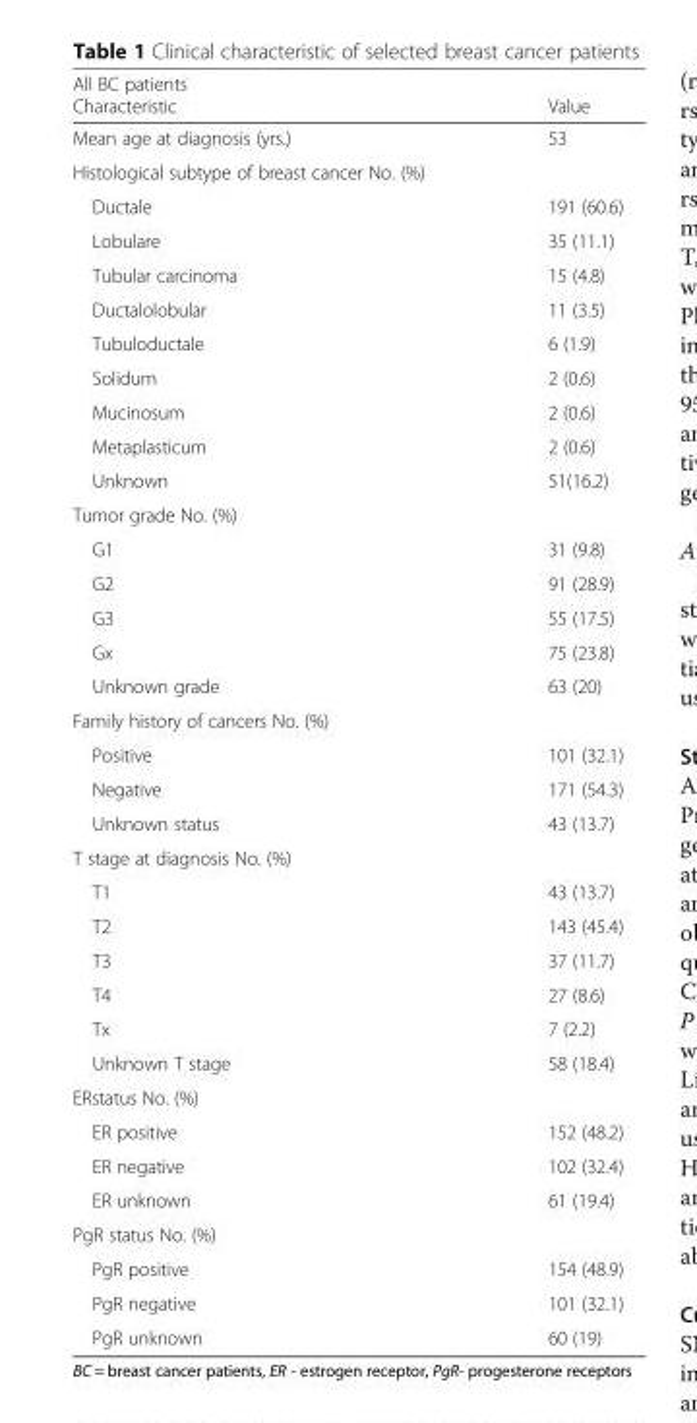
<table><thead><tr><td colspan="2">All BC patients</td></tr><tr><td>Characteristic</td><td>Value</td></tr></thead><tbody><tr><td>Mean age at diagnosis (yrs.)</td><td>53</td></tr><tr><td colspan="2">Histological subtype of breast cancer No. (%)</td></tr><tr><td>Ductale</td><td>191 (60.6)</td></tr><tr><td>Lobulare</td><td>35 (11.1)</td></tr><tr><td>Tubular carcinoma</td><td>15 (4.8)</td></tr><tr><td>Ductalolobular</td><td>11 (3.5)</td></tr><tr><td>Tubuloductale</td><td>6 (1.9)</td></tr><tr><td>Solidum</td><td>2 (0.6)</td></tr><tr><td>Mucinosum</td><td>2 (0.6)</td></tr><tr><td>Metaplasticum</td><td>2 (0.6)</td></tr><tr><td>Unknown</td><td>51(16.2)</td></tr><tr><td colspan="2">Tumor grade No. (%)</td></tr><tr><td>G1</td><td>31 (9.8)</td></tr><tr><td>G2</td><td>91 (28.9)</td></tr><tr><td>G3</td><td>55 (17.5)</td></tr><tr><td>Gx</td><td>75 (23.8)</td></tr><tr><td>Unknown grade</td><td>63 (20)</td></tr><tr><td colspan="2">Family history of cancers No. (%)</td></tr><tr><td>Positive</td><td>101 (32.1)</td></tr><tr><td>Negative</td><td>171 (54.3)</td></tr><tr><td>Unknown status</td><td>43 (13.7)</td></tr><tr><td colspan="2">T stage at diagnosis No. (%)</td></tr><tr><td>T1</td><td>43 (13.7)</td></tr><tr><td>T2</td><td>143 (45.4)</td></tr><tr><td>T3</td><td>37 (11.7)</td></tr><tr><td>T4</td><td>27 (8.6)</td></tr><tr><td>Tx</td><td>7 (2.2)</td></tr><tr><td>Unknown T stage</td><td>58 (18.4)</td></tr><tr><td colspan="2">ERstatus No. (%)</td></tr><tr><td>ER positive</td><td>152 (48.2)</td></tr><tr><td>ER negative</td><td>102 (32.4)</td></tr><tr><td>ER unknown</td><td>61 (19.4)</td></tr><tr><td colspan="2">PgR status No. (%)</td></tr><tr><td>PgR positive</td><td>154 (48.9)</td></tr><tr><td>PgR negative</td><td>101 (32.1)</td></tr><tr><td>PgR unknown</td><td>60 (19)</td></tr></tbody></table>